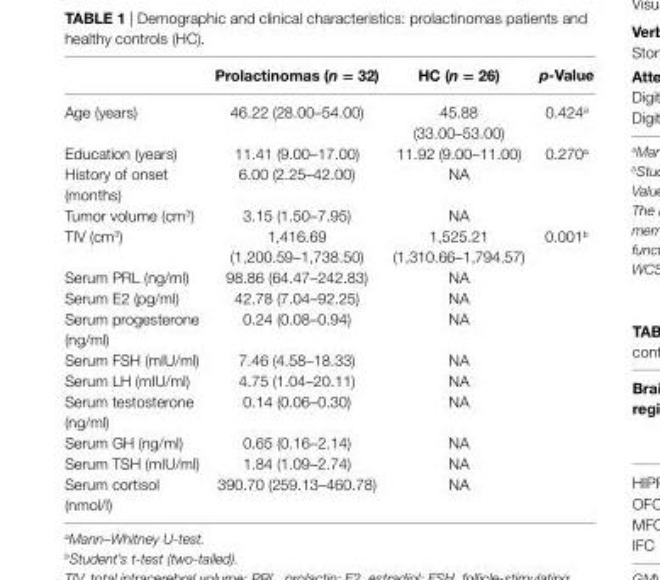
<table><thead><tr><td></td><td>Prolactinomas (n = 32)</td><td>hc (n = 26)</td><td>p-Value</td></tr></thead><tbody><tr><td>Age (years)</td><td>46.22 (28.00–54.00)</td><td>45.88 (33.00–53.00)</td><td>0.424<sup>a</sup></td></tr><tr><td>Education (years)</td><td>11.41 (9.00–17.00)</td><td>11.92 (9.00–11.00)</td><td>0.270<sup>a</sup></td></tr><tr><td>History of onset (months)</td><td>6.00 (2.25–42.00)</td><td>NA</td><td></td></tr><tr><td>Tumor volume (cm<sup>3</sup>)</td><td>3.15 (1.50–7.95)</td><td>NA</td><td></td></tr><tr><td>TIV (cm<sup>3</sup>)</td><td>1,416.69 (1,200.59–1,738.50)</td><td>1,525.21 (1,310.66–1,794.57)</td><td>0.001<sup>b</sup></td></tr><tr><td>Serum PRL (ng/ml)</td><td>98.86 (64.47–242.83)</td><td>NA</td><td></td></tr><tr><td>Serum E2 (pg/ml)</td><td>42.78 (7.04–92.25)</td><td>NA</td><td></td></tr><tr><td>Serum progesterone (ng/ml)</td><td>0.24 (0.08–0.94)</td><td>NA</td><td></td></tr><tr><td>Serum FSH (mIU/ml)</td><td>7.46 (4.58–18.33)</td><td>NA</td><td></td></tr><tr><td>Serum LH (mIU/ml)</td><td>4.75 (1.04–20.11)</td><td>NA</td><td></td></tr><tr><td>Serum testosterone (ng/ml)</td><td>0.14 (0.06–0.30)</td><td>NA</td><td></td></tr><tr><td>Serum GH (ng/ml)</td><td>0.65 (0.16–2.14)</td><td>NA</td><td></td></tr><tr><td>Serum TSH (mIU/ml)</td><td>1.84 (1.09–2.74)</td><td>NA</td><td></td></tr><tr><td>Serum cortisol (nmol/l)</td><td>390.70 (259.13–460.78)</td><td>NA</td><td></td></tr></tbody></table>